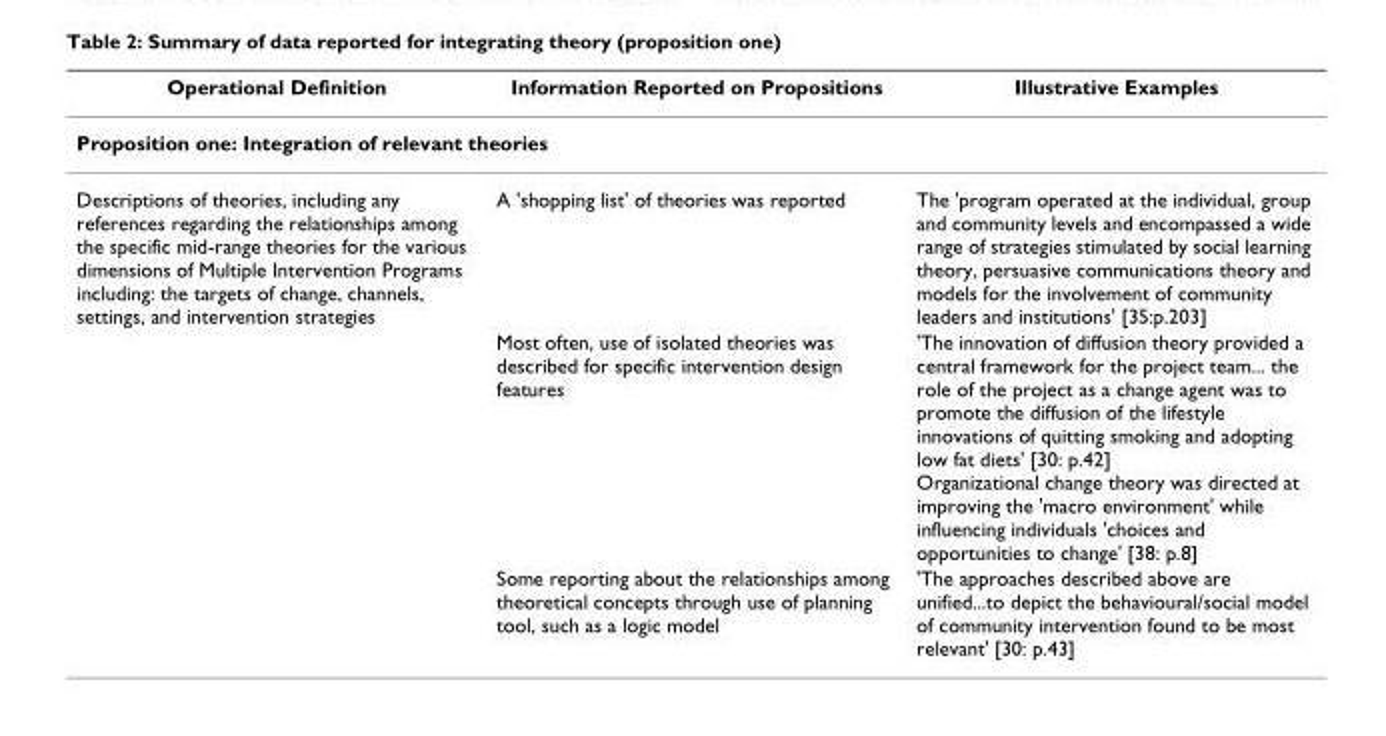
<table><thead><tr><td>Operational Definition</td><td>Information Reported on Propositions</td><td>Illustrative Examples</td></tr></thead><tbody><tr><td colspan="3">Proposition one: Integration of relevant theories</td></tr><tr><td rowspan="3">Descriptions of theories, including any references regarding the relationships among the specific mid-range theories for the various dimensions of Multiple Intervention Programs including: the targets of change, channels, settings, and intervention strategies</td><td>A &#x27;shopping list&#x27; of theories was reported</td><td>The &#x27;program operated at the individual, group and community levels and encompassed a wide range of strategies stimulated by social learning theory, persuasive communications theory and models for the involvement of community leaders and institutions&#x27; [35:p.203]</td></tr><tr><td>Most often, use of isolated theories was described for specific intervention design features</td><td>&#x27;The innovation of diffusion theory provided a central framework for the project team... the role of the project as a change agent was to promote the diffusion of the lifestyle innovations of quitting smoking and adopting low fat diets&#x27; [30: p.42] Organizational change theory was directed at improving the &#x27;macro environment&#x27; while influencing individuals &#x27;choices and opportunities to change&#x27; [38: p.8]</td></tr><tr><td>Some reporting about the relationships among theoretical concepts through use of planning tool, such as a logic model</td><td>&#x27;The approaches described above are unified...to depict the behavioural/social model of community intervention found to be most relevant&#x27; [30: p.43]</td></tr></tbody></table>